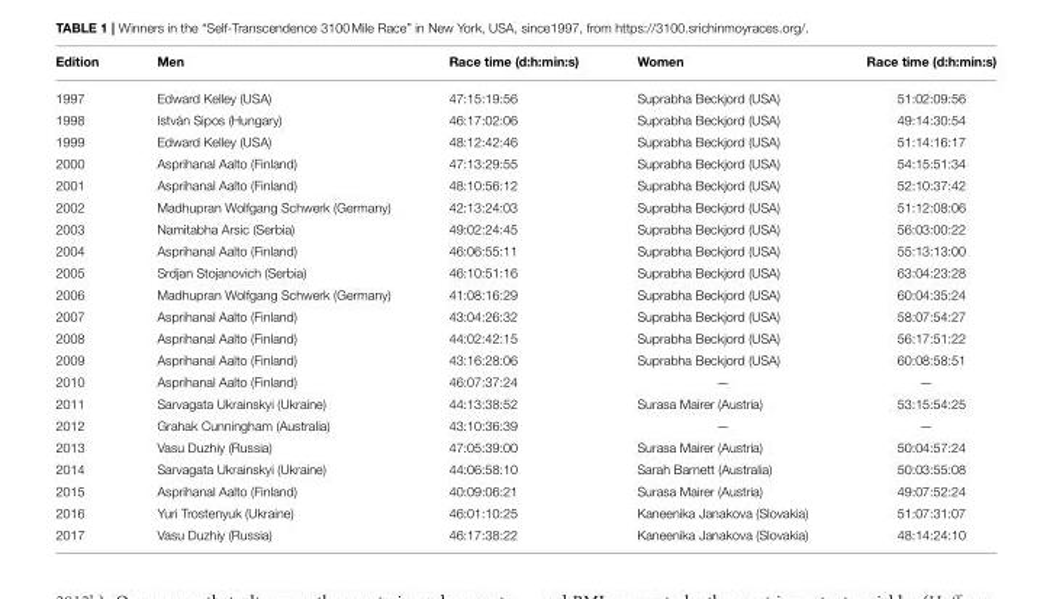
<table><thead><tr><td>Edition</td><td>Men</td><td>Race time (d:h:min:s)</td><td>Women</td><td>Race time (d:h:min:s)</td></tr></thead><tbody><tr><td>1997</td><td>Edward Kelley (USA)</td><td>47:15:19:56</td><td>Suprabha Beckjord (USA)</td><td>51:02:09:56</td></tr><tr><td>1998</td><td>István Sipos (Hungary)</td><td>46:17:02:06</td><td>Suprabha Beckjord (USA)</td><td>49:14:30:54</td></tr><tr><td>1999</td><td>Edward Kelley (USA)</td><td>48:12:42:46</td><td>Suprabha Beckjord (USA)</td><td>51:14:16:17</td></tr><tr><td>2000</td><td>Asprihanal Aalto (Finland)</td><td>47:13:29:55</td><td>Suprabha Beckjord (USA)</td><td>54:15:51:34</td></tr><tr><td>2001</td><td>Asprihanal Aalto (Finland)</td><td>48:10:56:12</td><td>Suprabha Beckjord (USA)</td><td>52:10:37:42</td></tr><tr><td>2002</td><td>Madhupran Wolfgang Schwerk (Germany)</td><td>42:13:24:03</td><td>Suprabha Beckjord (USA)</td><td>51:12:08:06</td></tr><tr><td>2003</td><td>Namitabha Arsic (Serbia)</td><td>49:02:24:45</td><td>Suprabha Beckjord (USA)</td><td>56:03:00:22</td></tr><tr><td>2004</td><td>Asprihanal Aalto (Finland)</td><td>46:06:55:11</td><td>Suprabha Beckjord (USA)</td><td>55:13:13:00</td></tr><tr><td>2005</td><td>Srdjan Stojanovich (Serbia)</td><td>46:10:51:16</td><td>Suprabha Beckjord (USA)</td><td>63:04:23:28</td></tr><tr><td>2006</td><td>Madhupran Wolfgang Schwerk (Germany)</td><td>41:08:16:29</td><td>Suprabha Beckjord (USA)</td><td>60:04:35:24</td></tr><tr><td>2007</td><td>Asprihanal Aalto (Finland)</td><td>43:04:26:32</td><td>Suprabha Beckjord (USA)</td><td>58:07:54:27</td></tr><tr><td>2008</td><td>Asprihanal Aalto (Finland)</td><td>44:02:42:15</td><td>Suprabha Beckjord (USA)</td><td>56:17:51:22</td></tr><tr><td>2009</td><td>Asprihanal Aalto (Finland)</td><td>43:16:28:06</td><td>Suprabha Beckjord (USA)</td><td>60:08:58:51</td></tr><tr><td>2010</td><td>Asprihanal Aalto (Finland)</td><td>46:07:37:24</td><td>—</td><td>—</td></tr><tr><td>2011</td><td>Sarvagata Ukrainskyi (Ukraine)</td><td>44:13:38:52</td><td>Surasa Mairer (Austria)</td><td>53:15:54:25</td></tr><tr><td>2012</td><td>Grahak Cunningham (Australia)</td><td>43:10:36:39</td><td>—</td><td>—</td></tr><tr><td>2013</td><td>Vasu Duzhiy (Russia)</td><td>47:05:39:00</td><td>Surasa Mairer (Austria)</td><td>50:04:57:24</td></tr><tr><td>2014</td><td>Sarvagata Ukrainskyi (Ukraine)</td><td>44:06:58:10</td><td>Sarah Barnett (Australia)</td><td>50:03:55:08</td></tr><tr><td>2015</td><td>Asprihanal Aalto (Finland)</td><td>40:09:06:21</td><td>Surasa Mairer (Austria)</td><td>49:07:52:24</td></tr><tr><td>2016</td><td>Yuri Trostenyuk (Ukraine)</td><td>46:01:10:25</td><td>Kaneenika Janakova (Slovakia)</td><td>51:07:31:07</td></tr><tr><td>2017</td><td>Vasu Duzhiy (Russia)</td><td>46:17:38:22</td><td>Kaneenika Janakova (Slovakia)</td><td>48:14:24:10</td></tr></tbody></table>